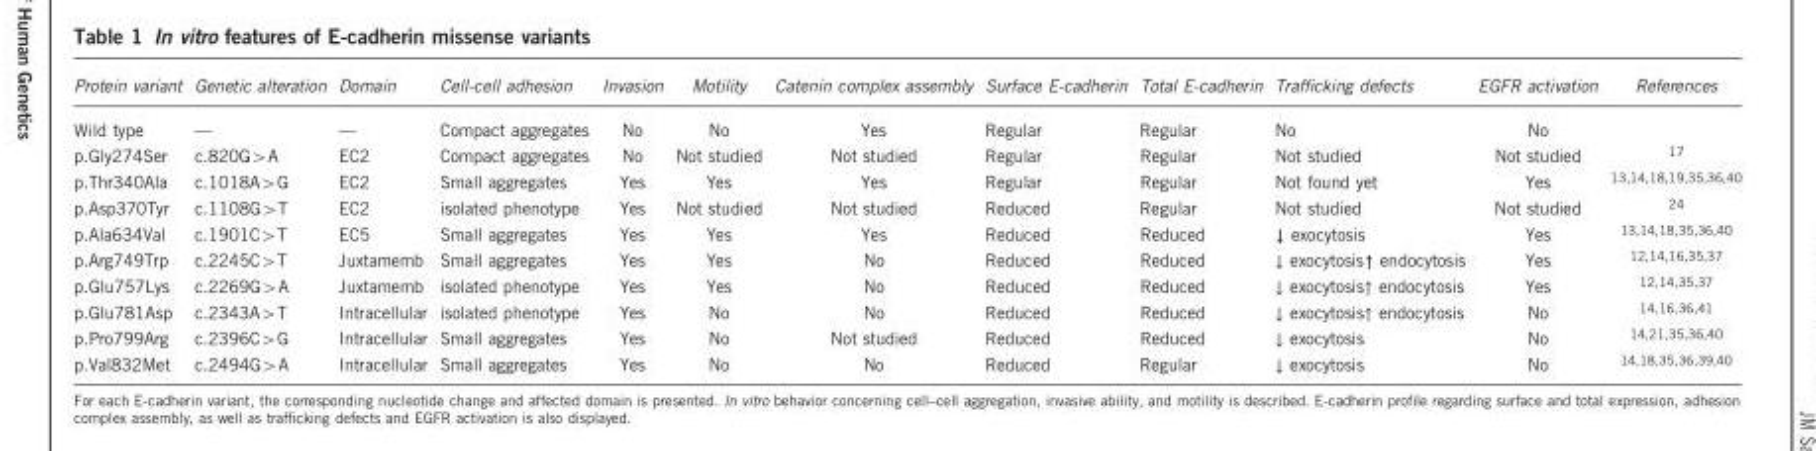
<table><thead><tr><td>Protein variant</td><td>Genetic alteration</td><td>Domain</td><td>Cell-cell adhesion</td><td>Invasion</td><td>Motility</td><td>Catenin complex assembly</td><td>Surface E-cadherin</td><td>Total E-cadherin</td><td>Trafficking defects</td><td>EGFR activation</td><td>References</td></tr></thead><tbody><tr><td>Wild type</td><td>—</td><td>—</td><td>Compact aggregates</td><td>No</td><td>No</td><td>Yes</td><td>Regular</td><td>Regular</td><td>No</td><td>No</td><td></td></tr><tr><td>p.Gly274Ser</td><td>c.820G&gt;A</td><td>EC2</td><td>Compact aggregates</td><td>No</td><td>Not studied</td><td>Not studied</td><td>Regular</td><td>Regular</td><td>Not studied</td><td>Not studied</td><td><sup>17</sup></td></tr><tr><td>p.Thr340Ala</td><td>c.1018A&gt;G</td><td>EC2</td><td>Small aggregates</td><td>Yes</td><td>Yes</td><td>Yes</td><td>Regular</td><td>Regular</td><td>Not found yet</td><td>Yes</td><td><sup>13,14,18,19,35,36,40</sup></td></tr><tr><td>p.Asp370Tyr</td><td>c.1108G&gt;T</td><td>EC2</td><td>isolated phenotype</td><td>Yes</td><td>Not studied</td><td>Not studied</td><td>Reduced</td><td>Regular</td><td>Not studied</td><td>Not studied</td><td><sup>24</sup></td></tr><tr><td>p.Ala634Val</td><td>c.1901C&gt;T</td><td>EC5</td><td>Small aggregates</td><td>Yes</td><td>Yes</td><td>Yes</td><td>Reduced</td><td>Reduced</td><td>↓ exocytosis</td><td>Yes</td><td><sup>13,14,18,35,36,40</sup></td></tr><tr><td>p.Arg749Trp</td><td>c.2245C&gt;T</td><td>Juxtamemb</td><td>Small aggregates</td><td>Yes</td><td>Yes</td><td>No</td><td>Reduced</td><td>Reduced</td><td>↓ exocytosis↑ endocytosis</td><td>Yes</td><td><sup>12,14,16,35,37</sup></td></tr><tr><td>p.Glu757Lys</td><td>c.2269G&gt;A</td><td>Juxtamemb</td><td>isolated phenotype</td><td>Yes</td><td>Yes</td><td>No</td><td>Reduced</td><td>Reduced</td><td>↓ exocytosis↑ endocytosis</td><td>Yes</td><td><sup>12,14,35,37</sup></td></tr><tr><td>p.Glu781Asp</td><td>c.2343A&gt;T</td><td>Intracellular</td><td>isolated phenotype</td><td>Yes</td><td>No</td><td>No</td><td>Reduced</td><td>Reduced</td><td>↓ exocytosis↑ endocytosis</td><td>No</td><td><sup>14,16,36,41</sup></td></tr><tr><td>p.Pro799Arg</td><td>c.2396C&gt;G</td><td>Intracellular</td><td>Small aggregates</td><td>Yes</td><td>No</td><td>Not studied</td><td>Reduced</td><td>Reduced</td><td>↓ exocytosis</td><td>No</td><td><sup>14,21,35,36,40</sup></td></tr><tr><td>p.Val832Met</td><td>c.2494G&gt;A</td><td>Intracellular</td><td>Small aggregates</td><td>Yes</td><td>No</td><td>No</td><td>Reduced</td><td>Regular</td><td>↓ exocytosis</td><td>No</td><td><sup>14,18,35,36,39,40</sup></td></tr></tbody></table>